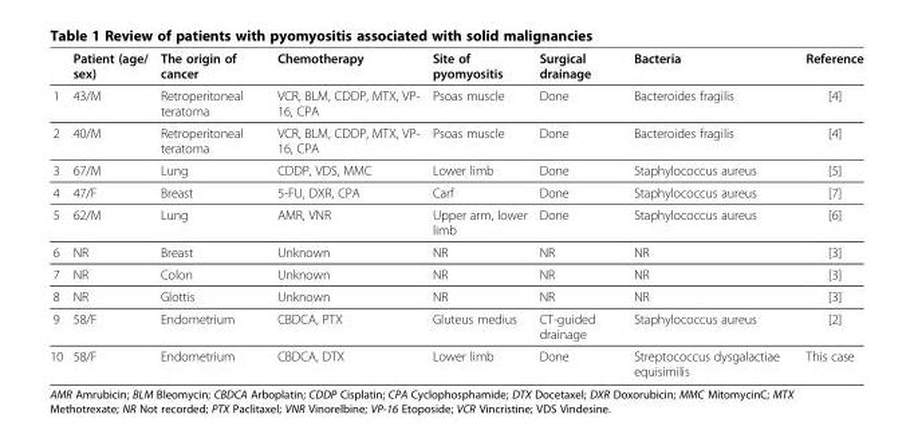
<table><thead><tr><td></td><td>Patient (age/ sex)</td><td>The origin of cancer</td><td>Chemotherapy</td><td>Site of pyomyositis</td><td>Surgical drainage</td><td>Bacteria</td><td>Reference</td></tr></thead><tbody><tr><td>1</td><td>43/M</td><td>Retroperitoneal teratoma</td><td>VCR, BLM, CDDP, MTX, VP- 16, CPA</td><td>Psoas muscle</td><td>Done</td><td>Bacteroides fragilis</td><td>[4]</td></tr><tr><td>2</td><td>40/M</td><td>Retroperitoneal teratoma</td><td>VCR, BLM, CDDP, MTX, VP- 16, CPA</td><td>Psoas muscle</td><td>Done</td><td>Bacteroides fragilis</td><td>[4]</td></tr><tr><td>3</td><td>67/M</td><td>Lung</td><td>CDDP, VDS, MMC</td><td>Lower limb</td><td>Done</td><td>Staphylococcus aureus</td><td>[5]</td></tr><tr><td>4</td><td>47/F</td><td>Breast</td><td>5-FU, DXR, CPA</td><td>Carf</td><td>Done</td><td>Staphylococcus aureus</td><td>[7]</td></tr><tr><td>5</td><td>62/M</td><td>Lung</td><td>AMR, VNR</td><td>Upper arm, lower limb</td><td>Done</td><td>Staphylococcus aureus</td><td>[6]</td></tr><tr><td>6</td><td>NR</td><td>Breast</td><td>Unknown</td><td>NR</td><td>NR</td><td>NR</td><td>[3]</td></tr><tr><td>7</td><td>NR</td><td>Colon</td><td>Unknown</td><td>NR</td><td>NR</td><td>NR</td><td>[3]</td></tr><tr><td>8</td><td>NR</td><td>Glottis</td><td>Unknown</td><td>NR</td><td>NR</td><td>NR</td><td>[3]</td></tr><tr><td>9</td><td>58/F</td><td>Endometrium</td><td>CBDCA, PTX</td><td>Gluteus medius</td><td>CT-guided drainage</td><td>Staphylococcus aureus</td><td>[2]</td></tr><tr><td>10</td><td>58/F</td><td>Endometrium</td><td>CBDCA, DTX</td><td>Lower limb</td><td>Done</td><td>Streptococcus dysgalactiae equisimilis</td><td>This case</td></tr></tbody></table>